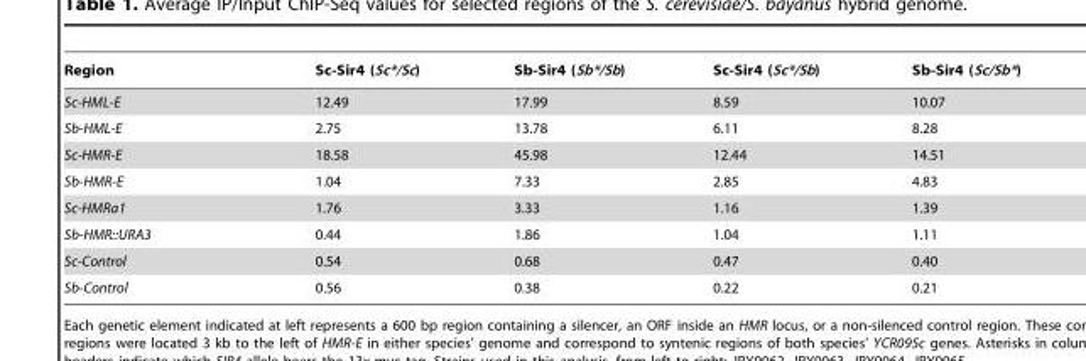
<table><thead><tr><td>Region</td><td>Sc-Sir4 (Sc*/Sc)</td><td>Sb-Sir4 (Sb*/Sb)</td><td>Sc-Sir4 (Sc*/Sb)</td><td>Sb-Sir4 (Sc/Sb*)</td></tr></thead><tbody><tr><td>Sc-HML-E</td><td>12.49</td><td>17.99</td><td>8.59</td><td>10.07</td></tr><tr><td>Sb-HML-E</td><td>2.75</td><td>13.78</td><td>6.11</td><td>8.28</td></tr><tr><td>Sc-HMR-E</td><td>18.58</td><td>45.98</td><td>12.44</td><td>14.51</td></tr><tr><td>Sb-HMR-E</td><td>1.04</td><td>7.33</td><td>2.85</td><td>4.83</td></tr><tr><td>Sc-HMRa1</td><td>1.76</td><td>3.33</td><td>1.16</td><td>1.39</td></tr><tr><td>Sb-HMR::URA3</td><td>0.44</td><td>1.86</td><td>1.04</td><td>1.11</td></tr><tr><td>Sc-Control</td><td>0.54</td><td>0.68</td><td>0.47</td><td>0.40</td></tr><tr><td>Sb-Control</td><td>0.56</td><td>0.38</td><td>0.22</td><td>0.21</td></tr></tbody></table>